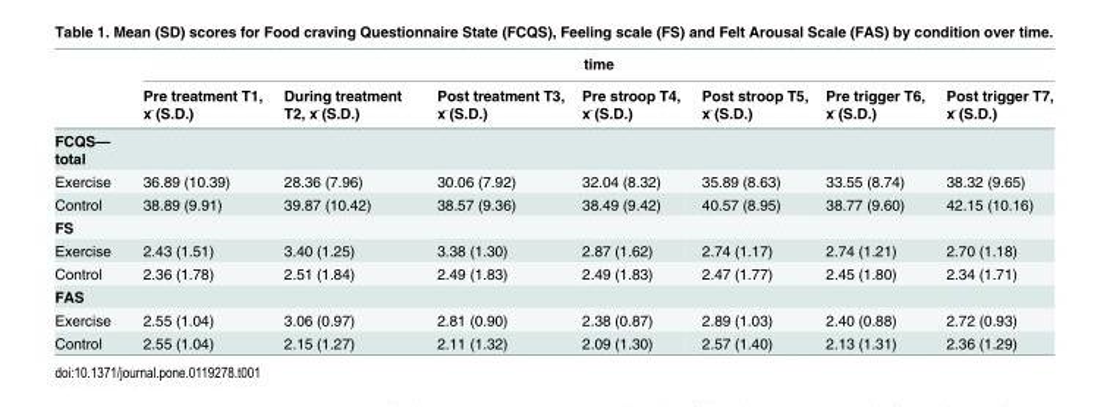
<table><thead><tr><td rowspan="2"></td><td colspan="7">time</td></tr><tr><td>Pre treatment T1, x¯(S.D.)</td><td>During treatment T2, x¯(S.D.)</td><td>Post treatment T3, x¯(S.D.)</td><td>Pre stroop T4, x¯(S.D.)</td><td>Post stroop T5, x¯(S.D.)</td><td>Pre trigger T6, x¯(S.D.)</td><td>Post trigger T7, x¯(S.D.)</td></tr></thead><tbody><tr><td colspan="8">FCQS— total</td></tr><tr><td>Exercise</td><td>36.89 (10.39)</td><td>28.36 (7.96)</td><td>30.06 (7.92)</td><td>32.04 (8.32)</td><td>35.89 (8.63)</td><td>33.55 (8.74)</td><td>38.32 (9.65)</td></tr><tr><td>Control</td><td>38.89 (9.91)</td><td>39.87 (10.42)</td><td>38.57 (9.36)</td><td>38.49 (9.42)</td><td>40.57 (8.95)</td><td>38.77 (9.60)</td><td>42.15 (10.16)</td></tr><tr><td colspan="8">FS</td></tr><tr><td>Exercise</td><td>2.43 (1.51)</td><td>3.40 (1.25)</td><td>3.38 (1.30)</td><td>2.87 (1.62)</td><td>2.74 (1.17)</td><td>2.74 (1.21)</td><td>2.70 (1.18)</td></tr><tr><td>Control</td><td>2.36 (1.78)</td><td>2.51 (1.84)</td><td>2.49 (1.83)</td><td>2.49 (1.83)</td><td>2.47 (1.77)</td><td>2.45 (1.80)</td><td>2.34 (1.71)</td></tr><tr><td colspan="8">FAS</td></tr><tr><td>Exercise</td><td>2.55 (1.04)</td><td>3.06 (0.97)</td><td>2.81 (0.90)</td><td>2.38 (0.87)</td><td>2.89 (1.03)</td><td>2.40 (0.88)</td><td>2.72 (0.93)</td></tr><tr><td>Control</td><td>2.55 (1.04)</td><td>2.15 (1.27)</td><td>2.11 (1.32)</td><td>2.09 (1.30)</td><td>2.57 (1.40)</td><td>2.13 (1.31)</td><td>2.36 (1.29)</td></tr></tbody></table>